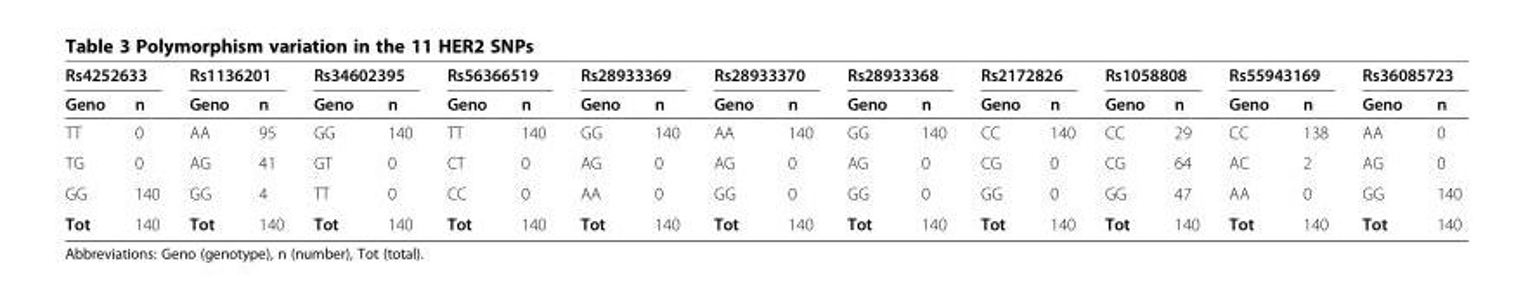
<table><thead><tr><td colspan="2">Rs4252633</td><td colspan="2">Rs1136201</td><td colspan="2">Rs34602395</td><td colspan="2">Rs56366519</td><td colspan="2">Rs28933369</td><td colspan="2">Rs28933370</td><td colspan="2">Rs28933368</td><td colspan="2">Rs2172826</td><td colspan="2">Rs1058808</td><td colspan="2">Rs55943169</td><td colspan="2">Rs36085723</td></tr><tr><td>Geno</td><td>n</td><td>Geno</td><td>n</td><td>Geno</td><td>n</td><td>Geno</td><td>n</td><td>Geno</td><td>n</td><td>Geno</td><td>n</td><td>Geno</td><td>n</td><td>Geno</td><td>n</td><td>Geno</td><td>n</td><td>Geno</td><td>n</td><td>Geno</td><td>n</td></tr></thead><tbody><tr><td>TT</td><td>0</td><td>AA</td><td>95</td><td>GG</td><td>140</td><td>TT</td><td>140</td><td>GG</td><td>140</td><td>AA</td><td>140</td><td>GG</td><td>140</td><td>CC</td><td>140</td><td>CC</td><td>29</td><td>CC</td><td>138</td><td>AA</td><td>0</td></tr><tr><td>TG</td><td>0</td><td>AG</td><td>41</td><td>GT</td><td>0</td><td>CT</td><td>0</td><td>AG</td><td>0</td><td>AG</td><td>0</td><td>AG</td><td>0</td><td>CG</td><td>0</td><td>CG</td><td>64</td><td>AC</td><td>2</td><td>AG</td><td>0</td></tr><tr><td>GG</td><td>140</td><td>GG</td><td>4</td><td>TT</td><td>0</td><td>CC</td><td>0</td><td>AA</td><td>0</td><td>GG</td><td>0</td><td>GG</td><td>0</td><td>GG</td><td>0</td><td>GG</td><td>47</td><td>AA</td><td>0</td><td>GG</td><td>140</td></tr><tr><td>Tot</td><td>140</td><td>Tot</td><td>140</td><td>Tot</td><td>140</td><td>Tot</td><td>140</td><td>Tot</td><td>140</td><td>Tot</td><td>140</td><td>Tot</td><td>140</td><td>Tot</td><td>140</td><td>Tot</td><td>140</td><td>Tot</td><td>140</td><td>Tot</td><td>140</td></tr></tbody></table>